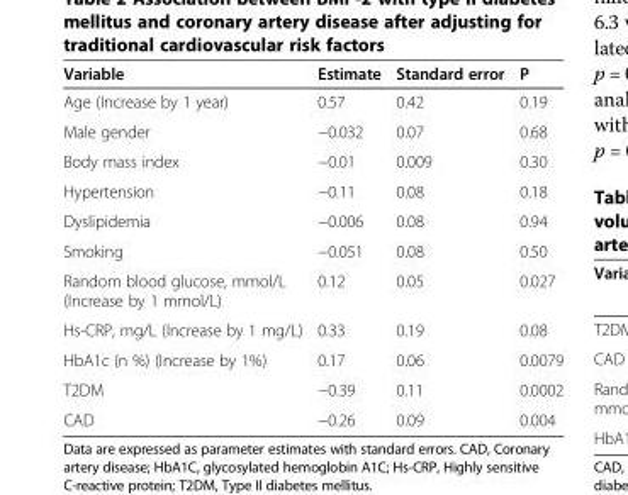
<table><thead><tr><td>Variable</td><td>Estimate</td><td>Standard error</td><td>P</td></tr></thead><tbody><tr><td>Age (Increase by 1 year)</td><td>0.57</td><td>0.42</td><td>0.19</td></tr><tr><td>Male gender</td><td>−0.032</td><td>0.07</td><td>0.68</td></tr><tr><td>Body mass index</td><td>−0.01</td><td>0.009</td><td>0.30</td></tr><tr><td>Hypertension</td><td>−0.11</td><td>0.08</td><td>0.18</td></tr><tr><td>Dyslipidemia</td><td>−0.006</td><td>0.08</td><td>0.94</td></tr><tr><td>Smoking</td><td>−0.051</td><td>0.08</td><td>0.50</td></tr><tr><td>Random blood glucose, mmol/L (Increase by 1 mmol/L)</td><td>0.12</td><td>0.05</td><td>0.027</td></tr><tr><td>Hs-CRP, mg/L (Increase by 1 mg/L)</td><td>0.33</td><td>0.19</td><td>0.08</td></tr><tr><td>HbA1c (n %) (Increase by 1%)</td><td>0.17</td><td>0.06</td><td>0.0079</td></tr><tr><td>T2DM</td><td>−0.39</td><td>0.11</td><td>0.0002</td></tr><tr><td>CAD</td><td>−0.26</td><td>0.09</td><td>0.004</td></tr></tbody></table>